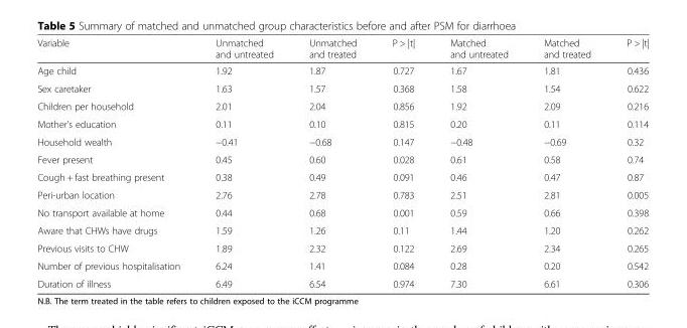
<table><thead><tr><td>Variable</td><td>Unmatched and untreated</td><td>Unmatched and treated</td><td>P &gt; |t|</td><td>Matched and untreated</td><td>Matched and treated</td><td>P &gt; |t|</td></tr></thead><tbody><tr><td>Age child</td><td>1.92</td><td>1.87</td><td>0.727</td><td>1.67</td><td>1.81</td><td>0.436</td></tr><tr><td>Sex caretaker</td><td>1.63</td><td>1.57</td><td>0.368</td><td>1.58</td><td>1.54</td><td>0.622</td></tr><tr><td>Children per household</td><td>2.01</td><td>2.04</td><td>0.856</td><td>1.92</td><td>2.09</td><td>0.216</td></tr><tr><td>Mother’s education</td><td>0.11</td><td>0.10</td><td>0.815</td><td>0.20</td><td>0.11</td><td>0.114</td></tr><tr><td>Household wealth</td><td>−0.41</td><td>−0.68</td><td>0.147</td><td>−0.48</td><td>−0.69</td><td>0.32</td></tr><tr><td>Fever present</td><td>0.45</td><td>0.60</td><td>0.028</td><td>0.61</td><td>0.58</td><td>0.74</td></tr><tr><td>Cough + fast breathing present</td><td>0.38</td><td>0.49</td><td>0.091</td><td>0.46</td><td>0.47</td><td>0.87</td></tr><tr><td>Peri-urban location</td><td>2.76</td><td>2.78</td><td>0.783</td><td>2.51</td><td>2.81</td><td>0.005</td></tr><tr><td>No transport available at home</td><td>0.44</td><td>0.68</td><td>0.001</td><td>0.59</td><td>0.66</td><td>0.398</td></tr><tr><td>Aware that CHWs have drugs</td><td>1.59</td><td>1.26</td><td>0.11</td><td>1.44</td><td>1.20</td><td>0.262</td></tr><tr><td>Previous visits to CHW</td><td>1.89</td><td>2.32</td><td>0.122</td><td>2.69</td><td>2.34</td><td>0.265</td></tr><tr><td>Number of previous hospitalisation</td><td>6.24</td><td>1.41</td><td>0.084</td><td>0.28</td><td>0.20</td><td>0.542</td></tr><tr><td>Duration of illness</td><td>6.49</td><td>6.54</td><td>0.974</td><td>7.30</td><td>6.61</td><td>0.306</td></tr></tbody></table>